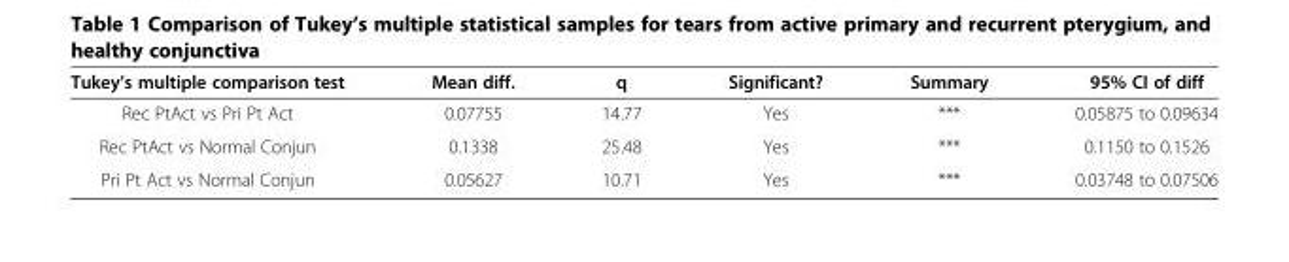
<table><thead><tr><td>Tukey’s multiple comparison test</td><td>Mean diff.</td><td>q</td><td>Significant?</td><td>Summary</td><td>95% CI of diff</td></tr></thead><tbody><tr><td>Rec PtAct vs Pri Pt Act</td><td>0.07755</td><td>14.77</td><td>Yes</td><td>***</td><td>0.05875 to 0.09634</td></tr><tr><td>Rec PtAct vs Normal Conjun</td><td>0.1338</td><td>25.48</td><td>Yes</td><td>***</td><td>0.1150 to 0.1526</td></tr><tr><td>Pri Pt Act vs Normal Conjun</td><td>0.05627</td><td>10.71</td><td>Yes</td><td>***</td><td>0.03748 to 0.07506</td></tr></tbody></table>